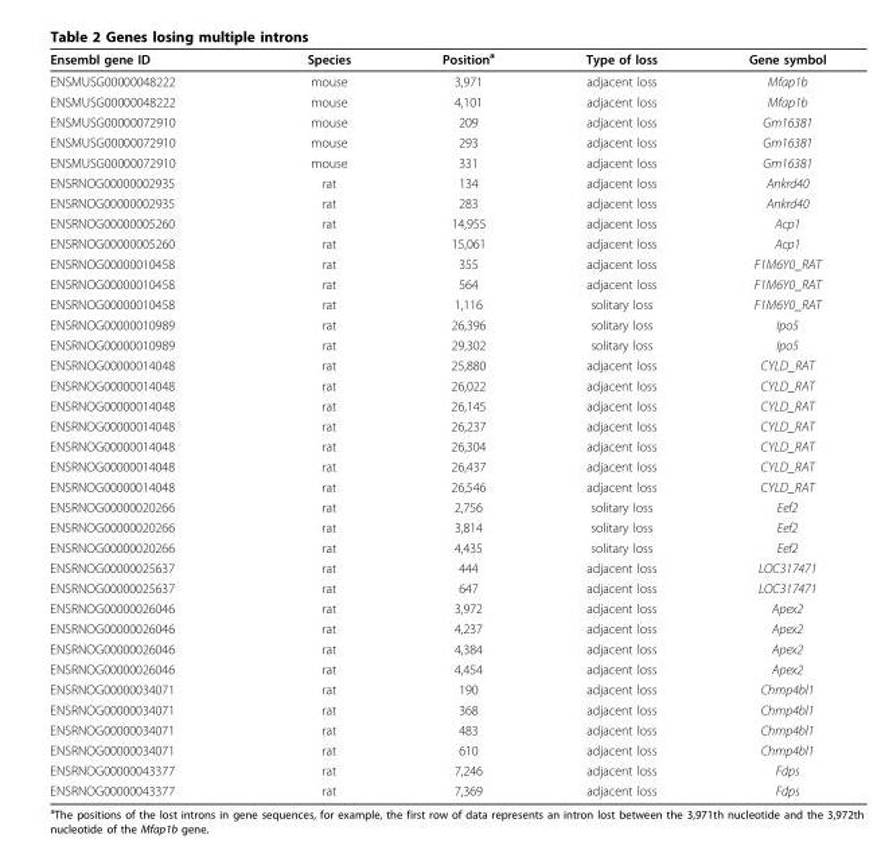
<table><thead><tr><td>Ensembl gene ID</td><td>Species</td><td>Position<sup>a</sup></td><td>Type of loss</td><td>Gene symbol</td></tr></thead><tbody><tr><td>ENSMUSG00000048222</td><td>mouse</td><td>3,971</td><td>adjacent loss</td><td>Mfap1b</td></tr><tr><td>ENSMUSG00000048222</td><td>mouse</td><td>4,101</td><td>adjacent loss</td><td>Mfap1b</td></tr><tr><td>ENSMUSG00000072910</td><td>mouse</td><td>209</td><td>adjacent loss</td><td>Gm16381</td></tr><tr><td>ENSMUSG00000072910</td><td>mouse</td><td>293</td><td>adjacent loss</td><td>Gm16381</td></tr><tr><td>ENSMUSG00000072910</td><td>mouse</td><td>331</td><td>adjacent loss</td><td>Gm16381</td></tr><tr><td>ENSRNOG00000002935</td><td>rat</td><td>134</td><td>adjacent loss</td><td>Ankrd40</td></tr><tr><td>ENSRNOG00000002935</td><td>rat</td><td>283</td><td>adjacent loss</td><td>Ankrd40</td></tr><tr><td>ENSRNOG00000005260</td><td>rat</td><td>14,955</td><td>adjacent loss</td><td>Acp1</td></tr><tr><td>ENSRNOG00000005260</td><td>rat</td><td>15,061</td><td>adjacent loss</td><td>Acp1</td></tr><tr><td>ENSRNOG00000010458</td><td>rat</td><td>355</td><td>adjacent loss</td><td>F1M6Y0_RAT</td></tr><tr><td>ENSRNOG00000010458</td><td>rat</td><td>564</td><td>adjacent loss</td><td>F1M6Y0_RAT</td></tr><tr><td>ENSRNOG00000010458</td><td>rat</td><td>1,116</td><td>solitary loss</td><td>F1M6Y0_RAT</td></tr><tr><td>ENSRNOG00000010989</td><td>rat</td><td>26,396</td><td>solitary loss</td><td>Ipo5</td></tr><tr><td>ENSRNOG00000010989</td><td>rat</td><td>29,302</td><td>solitary loss</td><td>Ipo5</td></tr><tr><td>ENSRNOG00000014048</td><td>rat</td><td>25,880</td><td>adjacent loss</td><td>CYLD_RAT</td></tr><tr><td>ENSRNOG00000014048</td><td>rat</td><td>26,022</td><td>adjacent loss</td><td>CYLD_RAT</td></tr><tr><td>ENSRNOG00000014048</td><td>rat</td><td>26,145</td><td>adjacent loss</td><td>CYLD_RAT</td></tr><tr><td>ENSRNOG00000014048</td><td>rat</td><td>26,237</td><td>adjacent loss</td><td>CYLD_RAT</td></tr><tr><td>ENSRNOG00000014048</td><td>rat</td><td>26,304</td><td>adjacent loss</td><td>CYLD_RAT</td></tr><tr><td>ENSRNOG00000014048</td><td>rat</td><td>26,437</td><td>adjacent loss</td><td>CYLD_RAT</td></tr><tr><td>ENSRNOG00000014048</td><td>rat</td><td>26,546</td><td>adjacent loss</td><td>CYLD_RAT</td></tr><tr><td>ENSRNOG00000020266</td><td>rat</td><td>2,756</td><td>solitary loss</td><td>Eef2</td></tr><tr><td>ENSRNOG00000020266</td><td>rat</td><td>3,814</td><td>solitary loss</td><td>Eef2</td></tr><tr><td>ENSRNOG00000020266</td><td>rat</td><td>4,435</td><td>solitary loss</td><td>Eef2</td></tr><tr><td>ENSRNOG00000025637</td><td>rat</td><td>444</td><td>adjacent loss</td><td>LOC317471</td></tr><tr><td>ENSRNOG00000025637</td><td>rat</td><td>647</td><td>adjacent loss</td><td>LOC317471</td></tr><tr><td>ENSRNOG00000026046</td><td>rat</td><td>3,972</td><td>adjacent loss</td><td>Apex2</td></tr><tr><td>ENSRNOG00000026046</td><td>rat</td><td>4,237</td><td>adjacent loss</td><td>Apex2</td></tr><tr><td>ENSRNOG00000026046</td><td>rat</td><td>4,384</td><td>adjacent loss</td><td>Apex2</td></tr><tr><td>ENSRNOG00000026046</td><td>rat</td><td>4,454</td><td>adjacent loss</td><td>Apex2</td></tr><tr><td>ENSRNOG00000034071</td><td>rat</td><td>190</td><td>adjacent loss</td><td>Chmp4bl1</td></tr><tr><td>ENSRNOG00000034071</td><td>rat</td><td>368</td><td>adjacent loss</td><td>Chmp4bl1</td></tr><tr><td>ENSRNOG00000034071</td><td>rat</td><td>483</td><td>adjacent loss</td><td>Chmp4bl1</td></tr><tr><td>ENSRNOG00000034071</td><td>rat</td><td>610</td><td>adjacent loss</td><td>Chmp4bl1</td></tr><tr><td>ENSRNOG00000043377</td><td>rat</td><td>7,246</td><td>adjacent loss</td><td>Fdps</td></tr><tr><td>ENSRNOG00000043377</td><td>rat</td><td>7,369</td><td>adjacent loss</td><td>Fdps</td></tr></tbody></table>